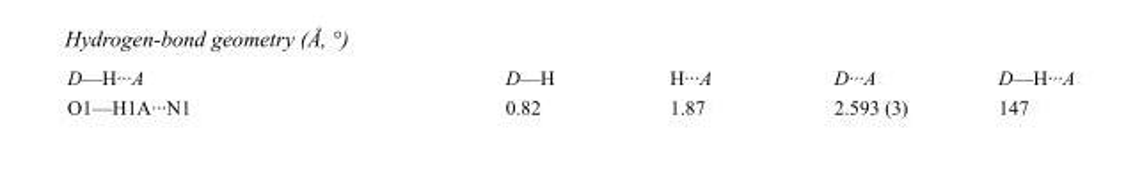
<table><tbody><tr><td>D—H···A</td><td>D—H</td><td>H···A</td><td>D···A</td><td>D—H···A</td></tr><tr><td>O1—H1A···N1</td><td>0.82</td><td>1.87</td><td>2.593 (3)</td><td>147</td></tr></tbody></table>